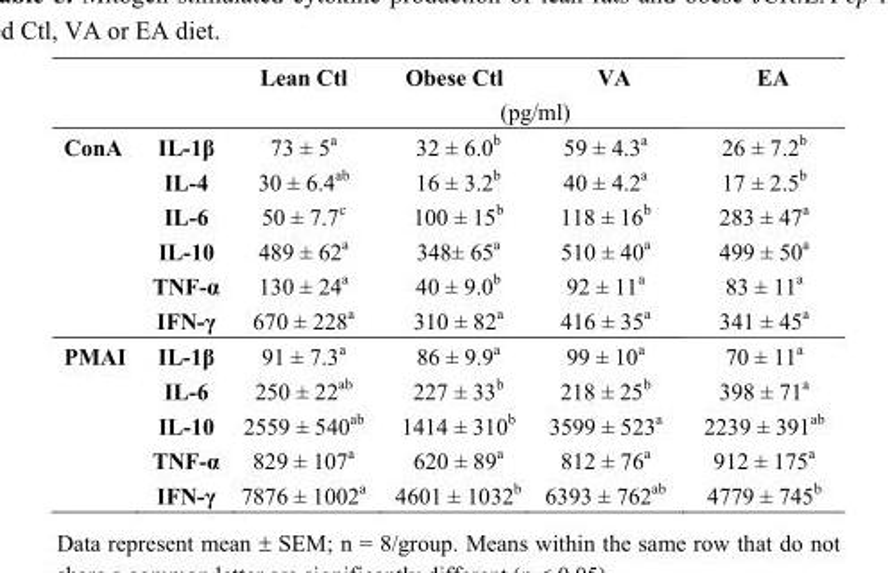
<table><thead><tr><td rowspan="2"></td><td rowspan="2"></td><td>Lean Ctl</td><td>Obese Ctl</td><td>VA</td><td>EA</td></tr><tr><td colspan="4">(pg/ml)</td></tr></thead><tbody><tr><td rowspan="6">ConA</td><td>IL-1β</td><td>73 ± 5<sup>a</sup></td><td>32 ± 6.0<sup>b</sup></td><td>59 ± 4.3<sup>a</sup></td><td>26 ± 7.2<sup>b</sup></td></tr><tr><td>IL-4</td><td>30 ± 6.4<sup>ab</sup></td><td>16 ± 3.2<sup>b</sup></td><td>40 ± 4.2<sup>a</sup></td><td>17 ± 2.5<sup>b</sup></td></tr><tr><td>IL-6</td><td>50 ± 7.7<sup>c</sup></td><td>100 ± 15<sup>b</sup></td><td>118 ± 16<sup>b</sup></td><td>283 ± 47<sup>a</sup></td></tr><tr><td>IL-10</td><td>489 ± 62<sup>a</sup></td><td>348± 65<sup>a</sup></td><td>510 ± 40<sup>a</sup></td><td>499 ± 50<sup>a</sup></td></tr><tr><td>TNF-α</td><td>130 ± 24<sup>a</sup></td><td>40 ± 9.0<sup>b</sup></td><td>92 ± 11<sup>a</sup></td><td>83 ± 11<sup>a</sup></td></tr><tr><td>IFN-γ</td><td>670 ± 228<sup>a</sup></td><td>310 ± 82<sup>a</sup></td><td>416 ± 35<sup>a</sup></td><td>341 ± 45<sup>a</sup></td></tr><tr><td rowspan="5">PMAI</td><td>IL-1β</td><td>91 ± 7.3<sup>a</sup></td><td>86 ± 9.9<sup>a</sup></td><td>99 ± 10<sup>a</sup></td><td>70 ± 11<sup>a</sup></td></tr><tr><td>IL-6</td><td>250 ± 22<sup>ab</sup></td><td>227 ± 33<sup>b</sup></td><td>218 ± 25<sup>b</sup></td><td>398 ± 71<sup>a</sup></td></tr><tr><td>IL-10</td><td>2559 ± 540<sup>ab</sup></td><td>1414 ± 310<sup>b</sup></td><td>3599 ± 523<sup>a</sup></td><td>2239 ± 391<sup>ab</sup></td></tr><tr><td>TNF-α</td><td>829 ± 107<sup>a</sup></td><td>620 ± 89<sup>a</sup></td><td>812 ± 76<sup>a</sup></td><td>912 ± 175<sup>a</sup></td></tr><tr><td>IFN-γ</td><td>7876 ± 1002<sup>a</sup></td><td>4601 ± 1032<sup>b</sup></td><td>6393 ± 762<sup>ab</sup></td><td>4779 ± 745<sup>b</sup></td></tr></tbody></table>